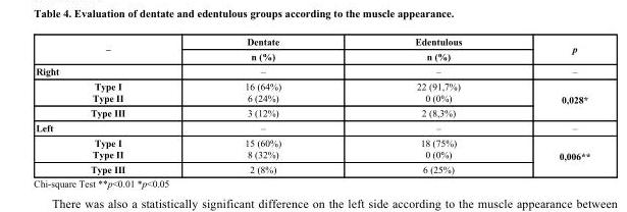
<table><thead><tr><td rowspan="2">–</td><td rowspan="2">Dentate n (%)</td><td rowspan="2">Edentulous n (%)</td><td rowspan="2">p</td></tr><tr></tr></thead><tbody><tr><td>Right</td><td>–</td><td>–</td><td>–</td></tr><tr><td>Type I Type II</td><td>16 (64%) 6 (24%)</td><td>22 (91,7%) 0 (0%)</td><td rowspan="2">0,028*</td></tr><tr><td>Type III</td><td>3 (12%)</td><td>2 (8,3%)</td></tr><tr><td>Left</td><td>–</td><td>–</td><td>–</td></tr><tr><td>Type I Type II</td><td>15 (60%) 8 (32%)</td><td>18 (75%) 0 (0%)</td><td rowspan="2">0,006**</td></tr><tr><td>Type III</td><td>2 (8%)</td><td>6 (25%)</td></tr></tbody></table>